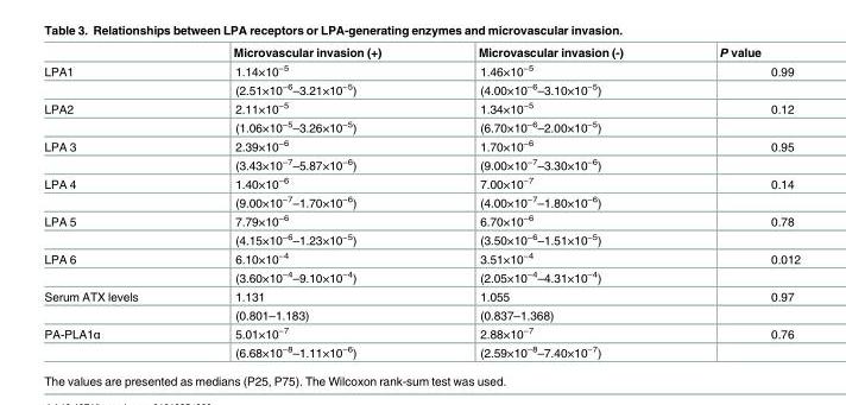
<table><thead><tr><td></td><td>Microvascular invasion (+)</td><td>Microvascular invasion (-)</td><td>P value</td></tr></thead><tbody><tr><td rowspan="2">LPA1</td><td>1.14×10<sup>−5</sup></td><td>1.46×10<sup>−5</sup></td><td>0.99</td></tr><tr><td>(2.51×10<sup>−6</sup>–3.21×10<sup>−5</sup>)</td><td>(4.00×10<sup>−6</sup>–3.10×10<sup>−5</sup>)</td><td></td></tr><tr><td rowspan="2">LPA2</td><td>2.11×10<sup>−5</sup></td><td>1.34×10<sup>−5</sup></td><td>0.12</td></tr><tr><td>(1.06×10<sup>−5</sup>–3.26×10<sup>−5</sup>)</td><td>(6.70×10<sup>−6</sup>–2.00×10<sup>−5</sup>)</td><td></td></tr><tr><td rowspan="2">LPA 3</td><td>2.39×10<sup>−6</sup></td><td>1.70×10<sup>−6</sup></td><td>0.95</td></tr><tr><td>(3.43×10<sup>−7</sup>–5.87×10<sup>−6</sup>)</td><td>(9.00×10<sup>−7</sup>–3.30×10<sup>−6</sup>)</td><td></td></tr><tr><td rowspan="2">LPA 4</td><td>1.40×10<sup>−6</sup></td><td>7.00×10<sup>−7</sup></td><td>0.14</td></tr><tr><td>(9.00×10<sup>−7</sup>–1.70×10<sup>−6</sup>)</td><td>(4.00×10<sup>−7</sup>–1.80×10<sup>−6</sup>)</td><td></td></tr><tr><td rowspan="2">LPA 5</td><td>7.79×10<sup>−6</sup></td><td>6.70×10<sup>−6</sup></td><td>0.78</td></tr><tr><td>(4.15×10<sup>−6</sup>–1.23×10<sup>−5</sup>)</td><td>(3.50×10<sup>−6</sup>–1.51×10<sup>−5</sup>)</td><td></td></tr><tr><td rowspan="2">LPA 6</td><td>6.10×10<sup>−4</sup></td><td>3.51×10<sup>−4</sup></td><td>0.012</td></tr><tr><td>(3.60×10<sup>−4</sup>–9.10×10<sup>−4</sup>)</td><td>(2.05×10<sup>−4</sup>–4.31×10<sup>−4</sup>)</td><td></td></tr><tr><td rowspan="2">Serum ATX levels</td><td>1.131</td><td>1.055</td><td>0.97</td></tr><tr><td>(0.801–1.183)</td><td>(0.837–1.368)</td><td></td></tr><tr><td rowspan="2">PA-PLA1α</td><td>5.01×10<sup>−7</sup></td><td>2.88×10<sup>−7</sup></td><td>0.76</td></tr><tr><td>(6.68×10<sup>−8</sup>–1.11×10<sup>−6</sup>)</td><td>(2.59×10<sup>−8</sup>–7.40×10<sup>−7</sup>)</td><td></td></tr></tbody></table>